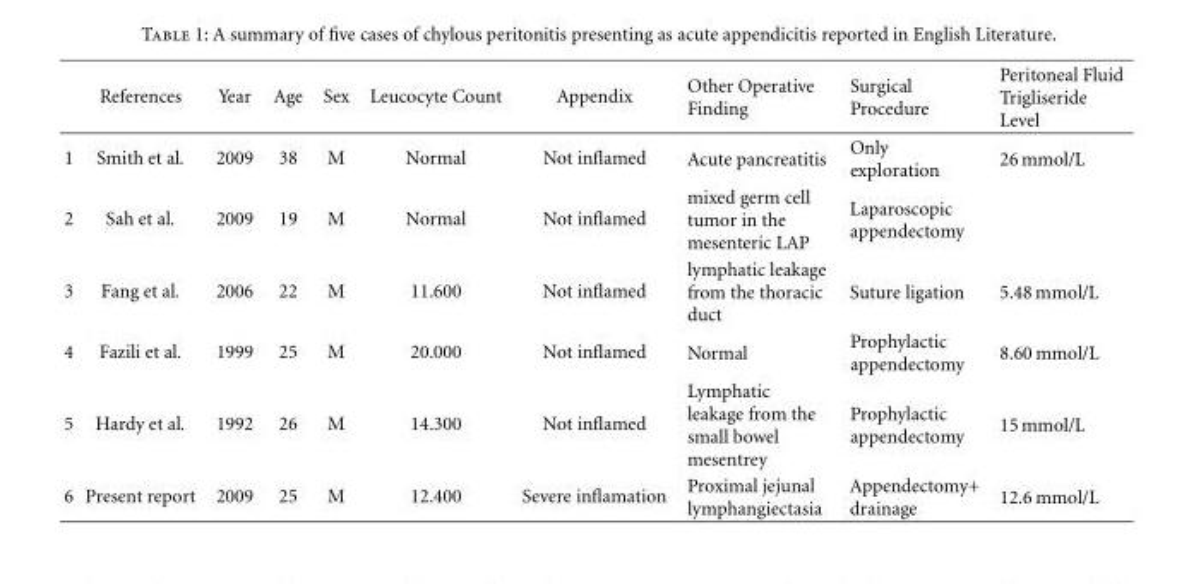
<table><thead><tr><td></td><td>References</td><td>Year</td><td>Age</td><td>Sex</td><td>Leucocyte Count</td><td>Appendix</td><td>Other Operative Finding</td><td>Surgical Procedure</td><td>Peritoneal Fluid Trigliseride Level</td></tr></thead><tbody><tr><td>1</td><td>Smith et al.</td><td>2009</td><td>38</td><td>M</td><td>Normal</td><td>Not inflamed</td><td>Acute pancreatitis</td><td>Only exploration</td><td>26 mmol/L</td></tr><tr><td>2</td><td>Sah et al.</td><td>2009</td><td>19</td><td>M</td><td>Normal</td><td>Not inflamed</td><td>mixed germ cell tumor in the mesenteric LAP</td><td>Laparoscopic appendectomy</td><td></td></tr><tr><td>3</td><td>Fang et al.</td><td>2006</td><td>22</td><td>M</td><td>11.600</td><td>Not inflamed</td><td>lymphatic leakage from the thoracic duct</td><td>Suture ligation</td><td>5.48 mmol/L</td></tr><tr><td>4</td><td>Fazili et al.</td><td>1999</td><td>25</td><td>M</td><td>20.000</td><td>Not inflamed</td><td>Normal</td><td>Prophylactic appendectomy</td><td>8.60 mmol/L</td></tr><tr><td>5</td><td>Hardy et al.</td><td>1992</td><td>26</td><td>M</td><td>14.300</td><td>Not inflamed</td><td>Lymphatic leakage from the small bowel mesentrey</td><td>Prophylactic appendectomy</td><td>15 mmol/L</td></tr><tr><td>6</td><td>Present report</td><td>2009</td><td>25</td><td>M</td><td>12.400</td><td>Severe inflamation</td><td>Proximal jejunal lymphangiectasia</td><td>Appendectomy+ drainage</td><td>12.6 mmol/L</td></tr></tbody></table>